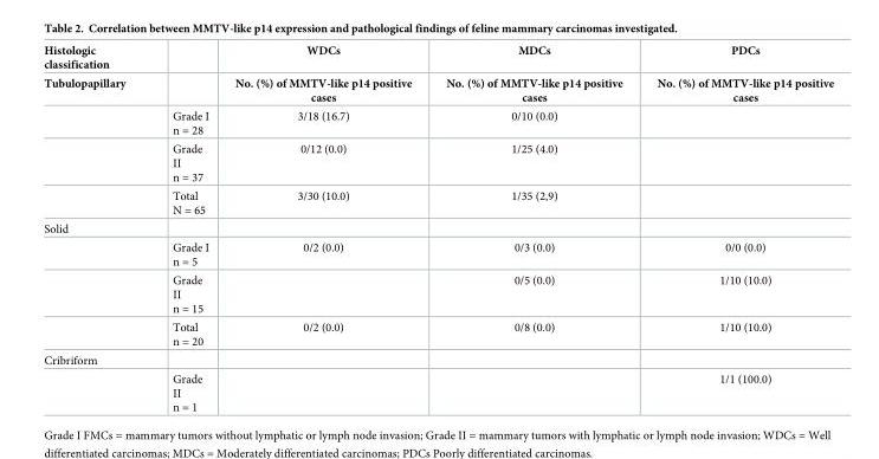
<table><thead><tr><td rowspan="2">Histologic classification Tubulopapillary</td><td rowspan="2"></td><td rowspan="2">WDCs No. (%) of MMTV-like p14 positive cases</td><td rowspan="2">MDCs No. (%) of MMTV-like p14 positive cases</td><td rowspan="2">PDCs No. (%) of MMTV-like p14 positive cases</td></tr><tr></tr></thead><tbody><tr><td></td><td>Grade I n = 28</td><td>3/18 (16.7)</td><td>0/10 (0.0)</td><td></td></tr><tr><td></td><td>Grade II n = 37</td><td>0/12 (0.0)</td><td>1/25 (4.0)</td><td></td></tr><tr><td></td><td>Total N = 65</td><td>3/30 (10.0)</td><td>1/35 (2,9)</td><td></td></tr><tr><td colspan="5">Solid</td></tr><tr><td></td><td>Grade I n = 5</td><td>0/2 (0.0)</td><td>0/3 (0.0)</td><td>0/0 (0.0)</td></tr><tr><td></td><td>Grade II n = 15</td><td></td><td>0/5 (0.0)</td><td>1/10 (10.0)</td></tr><tr><td></td><td>Total n = 20</td><td>0/2 (0.0)</td><td>0/8 (0.0)</td><td>1/10 (10.0)</td></tr><tr><td colspan="5">Cribriform</td></tr><tr><td></td><td>Grade II n = 1</td><td></td><td></td><td>1/1 (100.0)</td></tr></tbody></table>